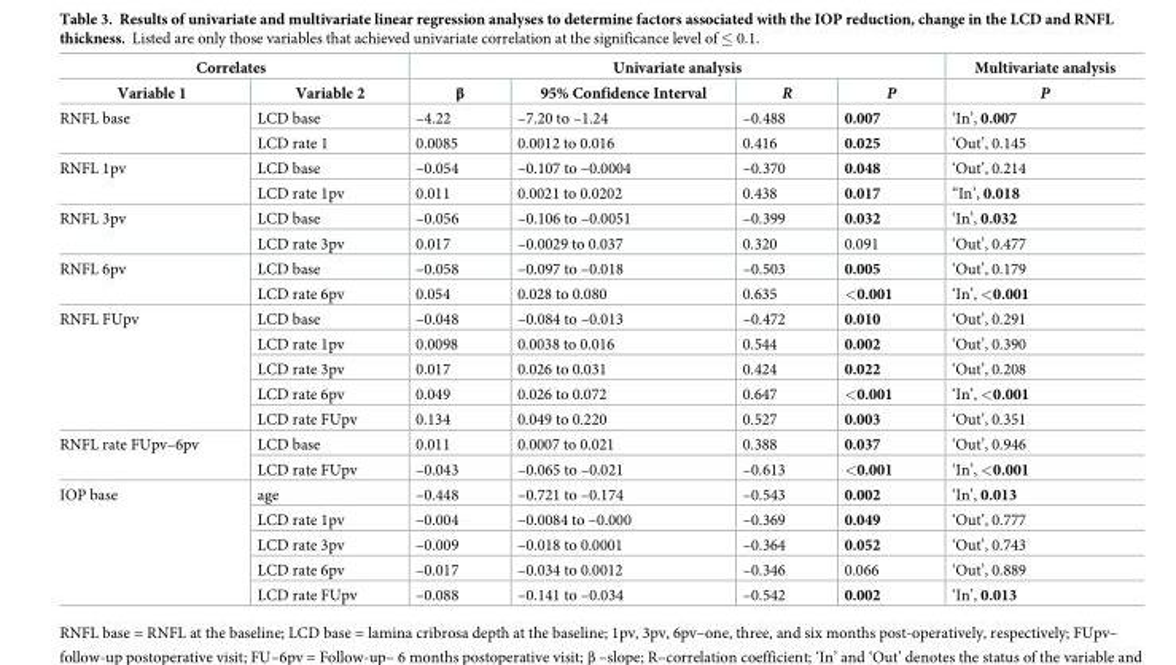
<table><thead><tr><td colspan="2">Correlates</td><td colspan="4">Univariate analysis</td><td rowspan="2">Multivariate analysis P</td></tr><tr><td>Variable 1</td><td>Variable 2</td><td>β</td><td>95% Confidence Interval</td><td>R</td><td>P</td></tr></thead><tbody><tr><td rowspan="2">RNFL base</td><td>LCD base</td><td>–4.22</td><td>–7.20 to –1.24</td><td>–0.488</td><td>0.007</td><td>‘In’, 0.007</td></tr><tr><td>LCD rate 1</td><td>0.0085</td><td>0.0012 to 0.016</td><td>0.416</td><td>0.025</td><td>‘Out’, 0.145</td></tr><tr><td rowspan="2">RNFL 1pv</td><td>LCD base</td><td>–0.054</td><td>–0.107 to –0.0004</td><td>–0.370</td><td>0.048</td><td>‘Out’, 0.214</td></tr><tr><td>LCD rate 1pv</td><td>0.011</td><td>0.0021 to 0.0202</td><td>0.438</td><td>0.017</td><td>“In’, 0.018</td></tr><tr><td rowspan="2">RNFL 3pv</td><td>LCD base</td><td>–0.056</td><td>–0.106 to –0.0051</td><td>–0.399</td><td>0.032</td><td>‘In’, 0.032</td></tr><tr><td>LCD rate 3pv</td><td>0.017</td><td>–0.0029 to 0.037</td><td>0.320</td><td>0.091</td><td>‘Out’, 0.477</td></tr><tr><td rowspan="2">RNFL 6pv</td><td>LCD base</td><td>–0.058</td><td>–0.097 to –0.018</td><td>–0.503</td><td>0.005</td><td>‘Out’, 0.179</td></tr><tr><td>LCD rate 6pv</td><td>0.054</td><td>0.028 to 0.080</td><td>0.635</td><td>&lt;0.001</td><td>‘In’, &lt;0.001</td></tr><tr><td rowspan="5">RNFL FUpv</td><td>LCD base</td><td>–0.048</td><td>–0.084 to –0.013</td><td>–0.472</td><td>0.010</td><td>‘Out’, 0.291</td></tr><tr><td>LCD rate 1pv</td><td>0.0098</td><td>0.0038 to 0.016</td><td>0.544</td><td>0.002</td><td>‘Out’, 0.390</td></tr><tr><td>LCD rate 3pv</td><td>0.017</td><td>0.026 to 0.031</td><td>0.424</td><td>0.022</td><td>‘Out’, 0.208</td></tr><tr><td>LCD rate 6pv</td><td>0.049</td><td>0.026 to 0.072</td><td>0.647</td><td>&lt;0.001</td><td>‘In’, &lt;0.001</td></tr><tr><td>LCD rate FUpv</td><td>0.134</td><td>0.049 to 0.220</td><td>0.527</td><td>0.003</td><td>‘Out’, 0.351</td></tr><tr><td rowspan="2">RNFL rate FUpv–6pv</td><td>LCD base</td><td>0.011</td><td>0.0007 to 0.021</td><td>0.388</td><td>0.037</td><td>‘Out’, 0.946</td></tr><tr><td>LCD rate FUpv</td><td>–0.043</td><td>–0.065 to –0.021</td><td>–0.613</td><td>&lt;0.001</td><td>‘In’, &lt;0.001</td></tr><tr><td rowspan="5">IOP base</td><td>age</td><td>–0.448</td><td>–0.721 to –0.174</td><td>–0.543</td><td>0.002</td><td>‘In’, 0.013</td></tr><tr><td>LCD rate 1pv</td><td>–0.004</td><td>–0.0084 to –0.000</td><td>–0.369</td><td>0.049</td><td>‘Out’, 0.777</td></tr><tr><td>LCD rate 3pv</td><td>–0.009</td><td>–0.018 to 0.0001</td><td>–0.364</td><td>0.052</td><td>‘Out’, 0.743</td></tr><tr><td>LCD rate 6pv</td><td>–0.017</td><td>–0.034 to 0.0012</td><td>–0.346</td><td>0.066</td><td>‘Out’, 0.889</td></tr><tr><td>LCD rate FUpv</td><td>–0.088</td><td>–0.141 to –0.034</td><td>–0.542</td><td>0.002</td><td>‘In’, 0.013</td></tr></tbody></table>